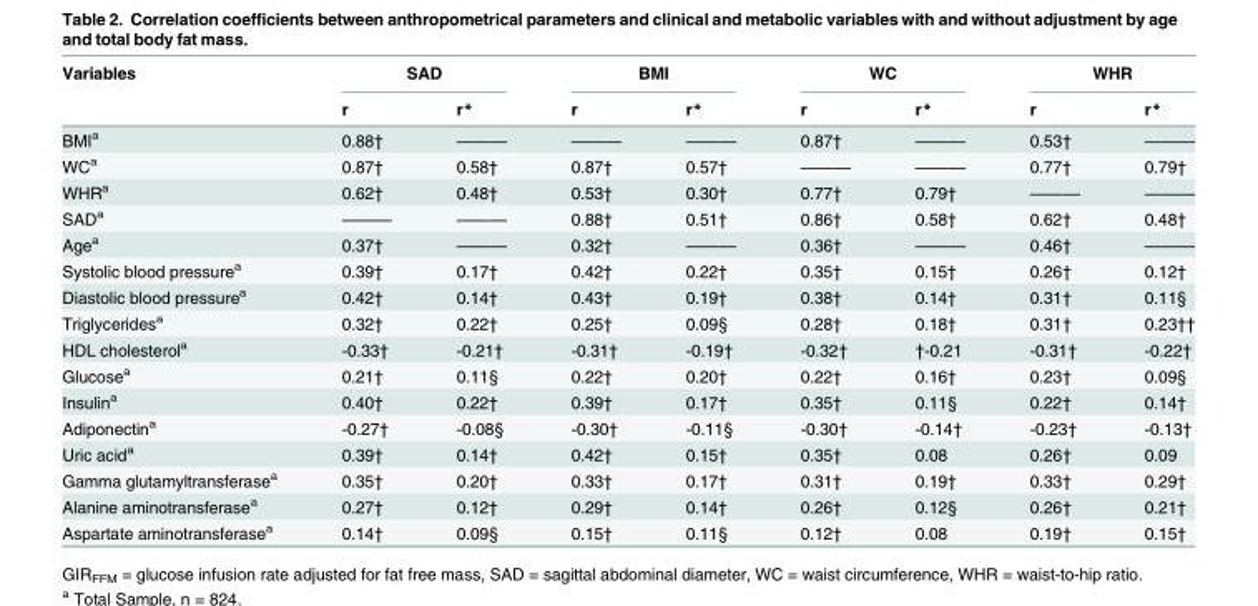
<table><thead><tr><td rowspan="2">Variables</td><td colspan="2">SAD</td><td colspan="2">BMI</td><td colspan="2">WC</td><td colspan="2">WHR</td></tr><tr><td>r</td><td>r*</td><td>r</td><td>r*</td><td>r</td><td>r*</td><td>r</td><td>r*</td></tr></thead><tbody><tr><td>BMI<sup>a</sup></td><td>0.88†</td><td>———</td><td>———</td><td>———</td><td>0.87†</td><td>———</td><td>0.53†</td><td>———</td></tr><tr><td>WC<sup>a</sup></td><td>0.87†</td><td>0.58†</td><td>0.87†</td><td>0.57†</td><td>———</td><td>———</td><td>0.77†</td><td>0.79†</td></tr><tr><td>WHR<sup>a</sup></td><td>0.62†</td><td>0.48†</td><td>0.53†</td><td>0.30†</td><td>0.77†</td><td>0.79†</td><td>———</td><td>———</td></tr><tr><td>SAD<sup>a</sup></td><td>———</td><td>———</td><td>0.88†</td><td>0.51†</td><td>0.86†</td><td>0.58†</td><td>0.62†</td><td>0.48†</td></tr><tr><td>Age<sup>a</sup></td><td>0.37†</td><td>———</td><td>0.32†</td><td>———</td><td>0.36†</td><td>———</td><td>0.46†</td><td>———</td></tr><tr><td>Systolic blood pressure<sup>a</sup></td><td>0.39†</td><td>0.17†</td><td>0.42†</td><td>0.22†</td><td>0.35†</td><td>0.15†</td><td>0.26†</td><td>0.12†</td></tr><tr><td>Diastolic blood pressure<sup>a</sup></td><td>0.42†</td><td>0.14†</td><td>0.43†</td><td>0.19†</td><td>0.38†</td><td>0.14†</td><td>0.31†</td><td>0.11§</td></tr><tr><td>Triglycerides<sup>a</sup></td><td>0.32†</td><td>0.22†</td><td>0.25†</td><td>0.09§</td><td>0.28†</td><td>0.18†</td><td>0.31†</td><td>0.23††</td></tr><tr><td>HDL cholesterol<sup>a</sup></td><td>-0.33†</td><td>-0.21†</td><td>-0.31†</td><td>-0.19†</td><td>-0.32†</td><td>†-0.21</td><td>-0.31†</td><td>-0.22†</td></tr><tr><td>Glucose<sup>a</sup></td><td>0.21†</td><td>0.11§</td><td>0.22†</td><td>0.20†</td><td>0.22†</td><td>0.16†</td><td>0.23†</td><td>0.09§</td></tr><tr><td>Insulin<sup>a</sup></td><td>0.40†</td><td>0.22†</td><td>0.39†</td><td>0.17†</td><td>0.35†</td><td>0.11§</td><td>0.22†</td><td>0.14†</td></tr><tr><td>Adiponectin<sup>a</sup></td><td>-0.27†</td><td>-0.08§</td><td>-0.30†</td><td>-0.11§</td><td>-0.30†</td><td>-0.14†</td><td>-0.23†</td><td>-0.13†</td></tr><tr><td>Uric acid<sup>a</sup></td><td>0.39†</td><td>0.14†</td><td>0.42†</td><td>0.15†</td><td>0.35†</td><td>0.08</td><td>0.26†</td><td>0.09</td></tr><tr><td>Gamma glutamyltransferase<sup>a</sup></td><td>0.35†</td><td>0.20†</td><td>0.33†</td><td>0.17†</td><td>0.31†</td><td>0.19†</td><td>0.33†</td><td>0.29†</td></tr><tr><td>Alanine aminotransferase<sup>a</sup></td><td>0.27†</td><td>0.12†</td><td>0.29†</td><td>0.14†</td><td>0.26†</td><td>0.12§</td><td>0.26†</td><td>0.21†</td></tr><tr><td>Aspartate aminotransferase<sup>a</sup></td><td>0.14†</td><td>0.09§</td><td>0.15†</td><td>0.11§</td><td>0.12†</td><td>0.08</td><td>0.19†</td><td>0.15†</td></tr></tbody></table>